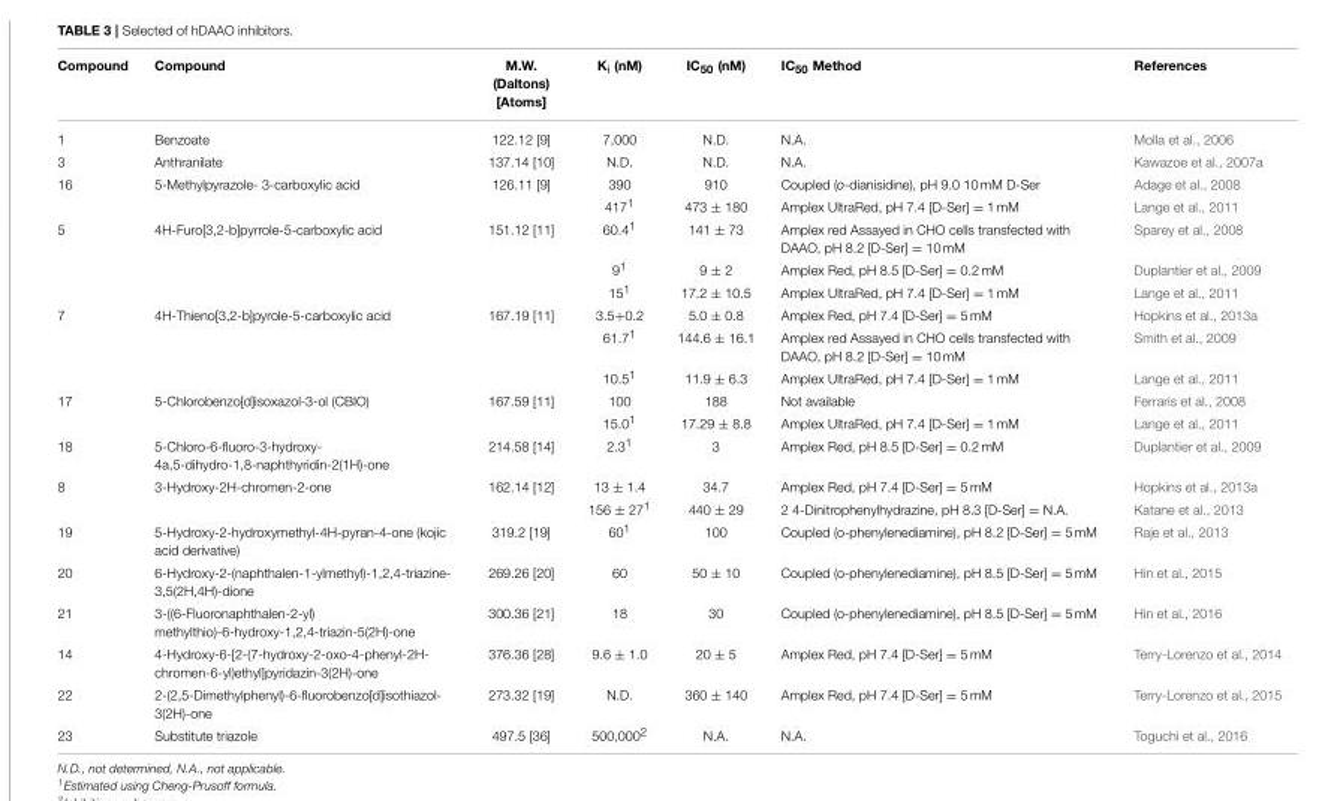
<table><thead><tr><td>Compound</td><td>Compound</td><td>M.W. (Daltons) [Atoms]</td><td>K<sub>i</sub> (nM)</td><td>IC<sub>50</sub> (nM)</td><td>IC<sub>50</sub> Method</td><td>References</td></tr></thead><tbody><tr><td>1</td><td>Benzoate</td><td>122.12 [9]</td><td>7,000</td><td>N.D.</td><td>N.A.</td><td>Molla et al., 2006</td></tr><tr><td>3</td><td>Anthranilate</td><td>137.14 [10]</td><td>N.D.</td><td>N.D.</td><td>N.A.</td><td>Kawazoe et al., 2007a</td></tr><tr><td rowspan="2">16</td><td>5-Methylpyrazole- 3-carboxylic acid</td><td>126.11 [9]</td><td>390</td><td>910</td><td>Coupled (o-dianisidine), pH 9.0 10 mM D-Ser</td><td>Adage et al., 2008</td></tr><tr><td></td><td></td><td>417<sup>1</sup></td><td>473 ± 180</td><td>Amplex UltraRed, pH 7.4 [D-Ser] = 1 mM</td><td>Lange et al., 2011</td></tr><tr><td rowspan="3">5</td><td>4H-Furo[3,2-b]pyrrole-5-carboxylic acid</td><td>151.12 [11]</td><td>60.4<sup>1</sup></td><td>141 ± 73</td><td>Amplex red Assayed in CHO cells transfected with DAAO, pH 8.2 [D-Ser] = 10 mM</td><td>Sparey et al., 2008</td></tr><tr><td></td><td></td><td>9<sup>1</sup></td><td>9 ± 2</td><td>Amplex Red, pH 8.5 [D-Ser] = 0.2 mM</td><td>Duplantier et al., 2009</td></tr><tr><td></td><td></td><td>15<sup>1</sup></td><td>17.2 ± 10.5</td><td>Amplex UltraRed, pH 7.4 [D-Ser] = 1 mM</td><td>Lange et al., 2011</td></tr><tr><td rowspan="3">7</td><td>4H-Thieno[3,2-b]pyrole-5-carboxylic acid</td><td>167.19 [11]</td><td>3.5+0.2</td><td>5.0 ± 0.8</td><td>Amplex Red, pH 7.4 [D-Ser] = 5 mM</td><td>Hopkins et al., 2013a</td></tr><tr><td></td><td></td><td>61.7<sup>1</sup></td><td>144.6 ± 16.1</td><td>Amplex red Assayed in CHO cells transfected with DAAO, pH 8.2 [D-Ser] = 10 mM</td><td>Smith et al., 2009</td></tr><tr><td></td><td></td><td>10.5<sup>1</sup></td><td>11.9 ± 6.3</td><td>Amplex UltraRed, pH 7.4 [D-Ser] = 1 mM</td><td>Lange et al., 2011</td></tr><tr><td rowspan="2">17</td><td>5-Chlorobenzo[d]isoxazol-3-ol (CBIO)</td><td>167.59 [11]</td><td>100</td><td>188</td><td>Not available</td><td>Ferraris et al., 2008</td></tr><tr><td></td><td></td><td>15.0<sup>1</sup></td><td>17.29 ± 8.8</td><td>Amplex UltraRed, pH 7.4 [D-Ser] = 1 mM</td><td>Lange et al., 2011</td></tr><tr><td>18</td><td>5-Chloro-6-fluoro-3-hydroxy- 4a,5-dihydro-1,8-naphthyridin-2(1H)-one</td><td>214.58 [14]</td><td>2.3<sup>1</sup></td><td>3</td><td>Amplex Red, pH 8.5 [D-Ser] = 0.2 mM</td><td>Duplantier et al., 2009</td></tr><tr><td rowspan="2">8</td><td>3-Hydroxy-2H-chromen-2-one</td><td>162.14 [12]</td><td>13 ± 1.4</td><td>34.7</td><td>Amplex Red, pH 7.4 [D-Ser] = 5 mM</td><td>Hopkins et al., 2013a</td></tr><tr><td></td><td></td><td>156 ± 27<sup>1</sup></td><td>440 ± 29</td><td>2 4-Dinitrophenylhydrazine, pH 8.3 [D-Ser] = N.A.</td><td>Katane et al., 2013</td></tr><tr><td>19</td><td>5-Hydroxy-2-hydroxymethyl-4H-pyran-4-one (kojic acid derivative)</td><td>319.2 [19]</td><td>60<sup>1</sup></td><td>100</td><td>Coupled (o-phenylenediamine), pH 8.2 [D-Ser] = 5 mM</td><td>Raje et al., 2013</td></tr><tr><td>20</td><td>6-Hydroxy-2-(naphthalen-1-ylmethyl)-1,2,4-triazine- 3,5(2H,4H)-dione</td><td>269.26 [20]</td><td>60</td><td>50 ± 10</td><td>Coupled (o-phenylenediamine), pH 8.5 [D-Ser] = 5 mM</td><td>Hin et al., 2015</td></tr><tr><td>21</td><td>3-((6-Fluoronaphthalen-2-yl) methylthio)-6-hydroxy-1,2,4-triazin-5(2H)-one</td><td>300.36 [21]</td><td>18</td><td>30</td><td>Coupled (o-phenylenediamine), pH 8.5 [D-Ser] = 5 mM</td><td>Hin et al., 2016</td></tr><tr><td>14</td><td>4-Hydroxy-6-[2-(7-hydroxy-2-oxo-4-phenyl-2H- chromen-6-yl)ethyl]pyridazin-3(2H)-one</td><td>376.36 [28]</td><td>9.6 ± 1.0</td><td>20 ± 5</td><td>Amplex Red, pH 7.4 [D-Ser] = 5 mM</td><td>Terry-Lorenzo et al., 2014</td></tr><tr><td>22</td><td>2-(2,5-Dimethylphenyl)-6-fluorobenzo[d]isothiazol- 3(2H)-one</td><td>273.32 [19]</td><td>N.D.</td><td>360 ± 140</td><td>Amplex Red, pH 7.4 [D-Ser] = 5 mM</td><td>Terry-Lorenzo et al., 2015</td></tr><tr><td>23</td><td>Substitute triazole</td><td>497.5 [36]</td><td>500,000<sup>2</sup></td><td>N.A.</td><td>N.A.</td><td>Toguchi et al., 2016</td></tr></tbody></table>